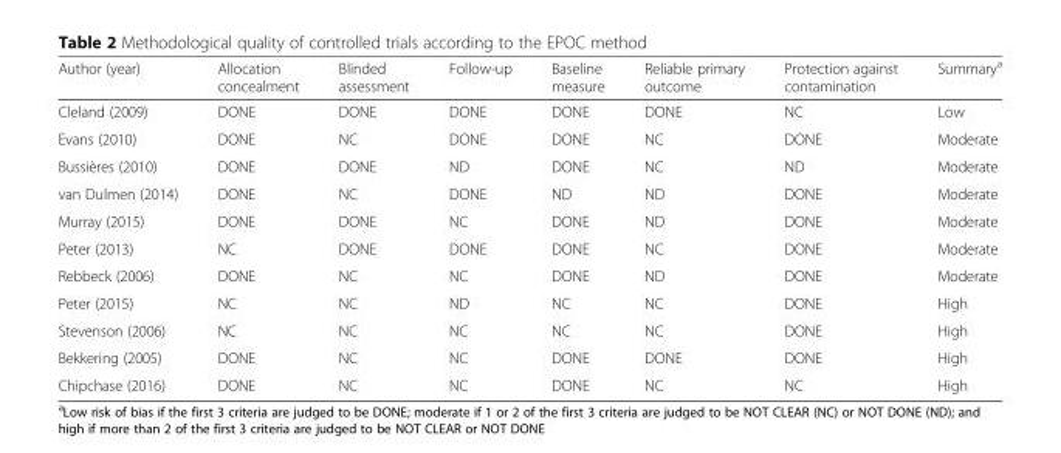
<table><thead><tr><td>Author (year)</td><td>Allocation concealment</td><td>Blinded assessment</td><td>Follow-up</td><td>Baseline measure</td><td>Reliable primary outcome</td><td>Protection against contamination</td><td>Summary<sup>a</sup></td></tr></thead><tbody><tr><td>Cleland (2009)</td><td>DONE</td><td>DONE</td><td>DONE</td><td>DONE</td><td>DONE</td><td>NC</td><td>Low</td></tr><tr><td>Evans (2010)</td><td>DONE</td><td>NC</td><td>DONE</td><td>DONE</td><td>NC</td><td>DONE</td><td>Moderate</td></tr><tr><td>Bussières (2010)</td><td>DONE</td><td>DONE</td><td>ND</td><td>DONE</td><td>NC</td><td>ND</td><td>Moderate</td></tr><tr><td>van Dulmen (2014)</td><td>DONE</td><td>NC</td><td>DONE</td><td>ND</td><td>ND</td><td>DONE</td><td>Moderate</td></tr><tr><td>Murray (2015)</td><td>DONE</td><td>DONE</td><td>NC</td><td>DONE</td><td>ND</td><td>DONE</td><td>Moderate</td></tr><tr><td>Peter (2013)</td><td>NC</td><td>DONE</td><td>DONE</td><td>DONE</td><td>NC</td><td>DONE</td><td>Moderate</td></tr><tr><td>Rebbeck (2006)</td><td>DONE</td><td>NC</td><td>NC</td><td>DONE</td><td>ND</td><td>DONE</td><td>Moderate</td></tr><tr><td>Peter (2015)</td><td>NC</td><td>NC</td><td>ND</td><td>NC</td><td>NC</td><td>DONE</td><td>High</td></tr><tr><td>Stevenson (2006)</td><td>NC</td><td>NC</td><td>NC</td><td>NC</td><td>NC</td><td>DONE</td><td>High</td></tr><tr><td>Bekkering (2005)</td><td>DONE</td><td>NC</td><td>NC</td><td>DONE</td><td>DONE</td><td>DONE</td><td>High</td></tr><tr><td>Chipchase (2016)</td><td>DONE</td><td>NC</td><td>NC</td><td>DONE</td><td>NC</td><td>NC</td><td>High</td></tr></tbody></table>